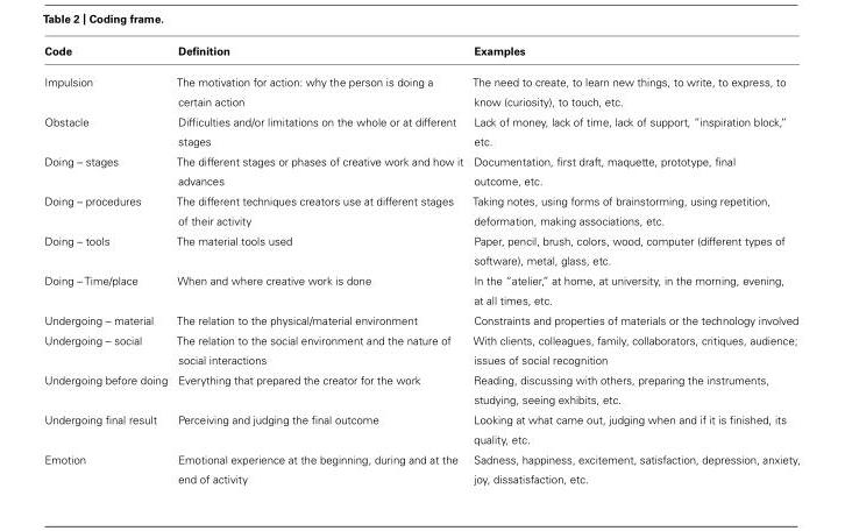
<table><thead><tr><td>Code</td><td>Definition</td><td>Examples</td></tr></thead><tbody><tr><td>Impulsion</td><td>The motivation for action: why the person is doing a certain action</td><td>The need to create, to learn new things, to write, to express, to know (curiosity), to touch, etc.</td></tr><tr><td>Obstacle</td><td>Difficulties and/or limitations on the whole or at different stages</td><td>Lack of money, lack of time, lack of support, ”inspiration block,” etc.</td></tr><tr><td>Doing – stages</td><td>The different stages or phases of creative work and how it advances</td><td>Documentation, first draft, maquette, prototype, final outcome, etc.</td></tr><tr><td>Doing – procedures</td><td>The different techniques creators use at different stages of their activity</td><td>Taking notes, using forms of brainstorming, using repetition, deformation, making associations, etc.</td></tr><tr><td>Doing – tools</td><td>The material tools used</td><td>Paper, pencil, brush, colors, wood, computer (different types of software), metal, glass, etc.</td></tr><tr><td>Doing – Time/place</td><td>When and where creative work is done</td><td>In the “atelier,” at home, at university, in the morning, evening, at all times, etc.</td></tr><tr><td>Undergoing – material</td><td>The relation to the physical/material environment</td><td>Constraints and properties of materials or the technology involved</td></tr><tr><td>Undergoing – social</td><td>The relation to the social environment and the nature of social interactions</td><td>With clients, colleagues, family, collaborators, critiques, audience; issues of social recognition</td></tr><tr><td>Undergoing before doing</td><td>Everything that prepared the creator for the work</td><td>Reading, discussing with others, preparing the instruments, studying, seeing exhibits, etc.</td></tr><tr><td>Undergoing final result</td><td>Perceiving and judging the final outcome</td><td>Looking at what came out, judging when and if it is finished, its quality, etc.</td></tr><tr><td>Emotion</td><td>Emotional experience at the beginning, during and at the end of activity</td><td>Sadness, happiness, excitement, satisfaction, depression, anxiety, joy, dissatisfaction, etc.</td></tr></tbody></table>